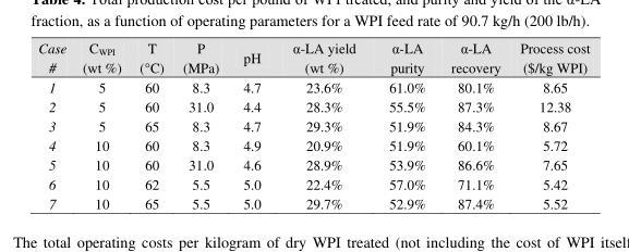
<table><thead><tr><td>Case #</td><td>C<sub>WPI</sub> (wt %)</td><td>T (°C)</td><td>P (MPa)</td><td>pH</td><td>α-LA yield (wt %)</td><td>α-LA purity</td><td>α-LA recovery</td><td>Process cost ($/kg WPI)</td></tr></thead><tbody><tr><td>1</td><td>5</td><td>60</td><td>8.3</td><td>4.7</td><td>23.6%</td><td>61.0%</td><td>80.1%</td><td>8.65</td></tr><tr><td>2</td><td>5</td><td>60</td><td>31.0</td><td>4.4</td><td>28.3%</td><td>55.5%</td><td>87.3%</td><td>12.38</td></tr><tr><td>3</td><td>5</td><td>65</td><td>8.3</td><td>4.7</td><td>29.3%</td><td>51.9%</td><td>84.3%</td><td>8.67</td></tr><tr><td>4</td><td>10</td><td>60</td><td>8.3</td><td>4.9</td><td>20.9%</td><td>51.9%</td><td>60.1%</td><td>5.72</td></tr><tr><td>5</td><td>10</td><td>60</td><td>31.0</td><td>4.6</td><td>28.9%</td><td>53.9%</td><td>86.6%</td><td>7.65</td></tr><tr><td>6</td><td>10</td><td>62</td><td>5.5</td><td>5.0</td><td>22.4%</td><td>57.0%</td><td>71.1%</td><td>5.42</td></tr><tr><td>7</td><td>10</td><td>65</td><td>5.5</td><td>5.0</td><td>29.7%</td><td>52.9%</td><td>87.4%</td><td>5.52</td></tr></tbody></table>